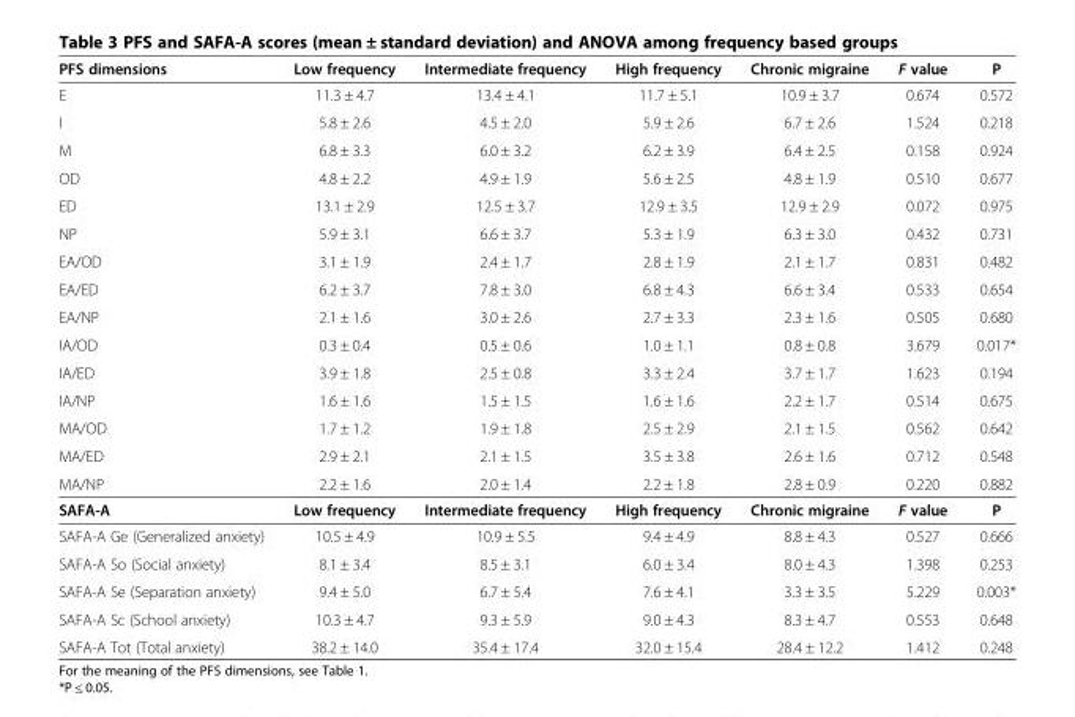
<table><thead><tr><td>PFS dimensions</td><td>Low frequency</td><td>Intermediate frequency</td><td>High frequency</td><td>Chronic migraine</td><td>F value</td><td>P</td></tr></thead><tbody><tr><td>E</td><td>11.3 ± 4.7</td><td>13.4 ± 4.1</td><td>11.7 ± 5.1</td><td>10.9 ± 3.7</td><td>0.674</td><td>0.572</td></tr><tr><td>I</td><td>5.8 ± 2.6</td><td>4.5 ± 2.0</td><td>5.9 ± 2.6</td><td>6.7 ± 2.6</td><td>1.524</td><td>0.218</td></tr><tr><td>M</td><td>6.8 ± 3.3</td><td>6.0 ± 3.2</td><td>6.2 ± 3.9</td><td>6.4 ± 2.5</td><td>0.158</td><td>0.924</td></tr><tr><td>OD</td><td>4.8 ± 2.2</td><td>4.9 ± 1.9</td><td>5.6 ± 2.5</td><td>4.8 ± 1.9</td><td>0.510</td><td>0.677</td></tr><tr><td>ED</td><td>13.1 ± 2.9</td><td>12.5 ± 3.7</td><td>12.9 ± 3.5</td><td>12.9 ± 2.9</td><td>0.072</td><td>0.975</td></tr><tr><td>NP</td><td>5.9 ± 3.1</td><td>6.6 ± 3.7</td><td>5.3 ± 1.9</td><td>6.3 ± 3.0</td><td>0.432</td><td>0.731</td></tr><tr><td>EA/OD</td><td>3.1 ± 1.9</td><td>2.4 ± 1.7</td><td>2.8 ± 1.9</td><td>2.1 ± 1.7</td><td>0.831</td><td>0.482</td></tr><tr><td>EA/ED</td><td>6.2 ± 3.7</td><td>7.8 ± 3.0</td><td>6.8 ± 4.3</td><td>6.6 ± 3.4</td><td>0.533</td><td>0.654</td></tr><tr><td>EA/NP</td><td>2.1 ± 1.6</td><td>3.0 ± 2.6</td><td>2.7 ± 3.3</td><td>2.3 ± 1.6</td><td>0.505</td><td>0.680</td></tr><tr><td>IA/OD</td><td>0.3 ± 0.4</td><td>0.5 ± 0.6</td><td>1.0 ± 1.1</td><td>0.8 ± 0.8</td><td>3.679</td><td>0.017*</td></tr><tr><td>IA/ED</td><td>3.9 ± 1.8</td><td>2.5 ± 0.8</td><td>3.3 ± 2.4</td><td>3.7 ± 1.7</td><td>1.623</td><td>0.194</td></tr><tr><td>IA/NP</td><td>1.6 ± 1.6</td><td>1.5 ± 1.5</td><td>1.6 ± 1.6</td><td>2.2 ± 1.7</td><td>0.514</td><td>0.675</td></tr><tr><td>MA/OD</td><td>1.7 ± 1.2</td><td>1.9 ± 1.8</td><td>2.5 ± 2.9</td><td>2.1 ± 1.5</td><td>0.562</td><td>0.642</td></tr><tr><td>MA/ED</td><td>2.9 ± 2.1</td><td>2.1 ± 1.5</td><td>3.5 ± 3.8</td><td>2.6 ± 1.6</td><td>0.712</td><td>0.548</td></tr><tr><td>MA/NP</td><td>2.2 ± 1.6</td><td>2.0 ± 1.4</td><td>2.2 ± 1.8</td><td>2.8 ± 0.9</td><td>0.220</td><td>0.882</td></tr><tr><td>SAFA-A</td><td>Low frequency</td><td>Intermediate frequency</td><td>High frequency</td><td>Chronic migraine</td><td>F value</td><td>P</td></tr><tr><td>SAFA-A Ge (Generalized anxiety)</td><td>10.5 ± 4.9</td><td>10.9 ± 5.5</td><td>9.4 ± 4.9</td><td>8.8 ± 4.3</td><td>0.527</td><td>0.666</td></tr><tr><td>SAFA-A So (Social anxiety)</td><td>8.1 ± 3.4</td><td>8.5 ± 3.1</td><td>6.0 ± 3.4</td><td>8.0 ± 4.3</td><td>1.398</td><td>0.253</td></tr><tr><td>SAFA-A Se (Separation anxiety)</td><td>9.4 ± 5.0</td><td>6.7 ± 5.4</td><td>7.6 ± 4.1</td><td>3.3 ± 3.5</td><td>5.229</td><td>0.003*</td></tr><tr><td>SAFA-A Sc (School anxiety)</td><td>10.3 ± 4.7</td><td>9.3 ± 5.9</td><td>9.0 ± 4.3</td><td>8.3 ± 4.7</td><td>0.553</td><td>0.648</td></tr><tr><td>SAFA-A Tot (Total anxiety)</td><td>38.2 ± 14.0</td><td>35.4 ± 17.4</td><td>32.0 ± 15.4</td><td>28.4 ± 12.2</td><td>1.412</td><td>0.248</td></tr></tbody></table>